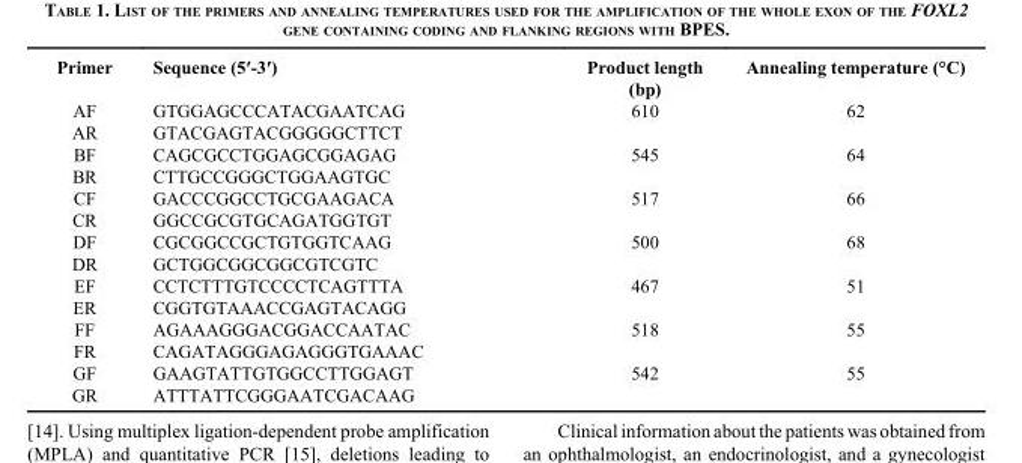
<table><thead><tr><td>Primer</td><td>Sequence (5′-3′)</td><td>Product length (bp)</td><td>Annealing temperature (°C)</td></tr></thead><tbody><tr><td>AF</td><td>GTGGAGCCCATACGAATCAG</td><td>610</td><td>62</td></tr><tr><td>AR</td><td>GTACGAGTACGGGGGCTTCT</td><td></td><td></td></tr><tr><td>BF</td><td>CAGCGCCTGGAGCGGAGAG</td><td>545</td><td>64</td></tr><tr><td>BR</td><td>CTTGCCGGGCTGGAAGTGC</td><td></td><td></td></tr><tr><td>CF</td><td>GACCCGGCCTGCGAAGACA</td><td>517</td><td>66</td></tr><tr><td>CR</td><td>GGCCGCGTGCAGATGGTGT</td><td></td><td></td></tr><tr><td>DF</td><td>CGCGGCCGCTGTGGTCAAG</td><td>500</td><td>68</td></tr><tr><td>DR</td><td>GCTGGCGGCGGCGTCGTC</td><td></td><td></td></tr><tr><td>EF</td><td>CCTCTTTGTCCCCTCAGTTTA</td><td>467</td><td>51</td></tr><tr><td>ER</td><td>CGGTGTAAACCGAGTACAGG</td><td></td><td></td></tr><tr><td>FF</td><td>AGAAAGGGACGGACCAATAC</td><td>518</td><td>55</td></tr><tr><td>FR</td><td>CAGATAGGGAGAGGGTGAAAC</td><td></td><td></td></tr><tr><td>GF</td><td>GAAGTATTGTGGCCTTGGAGT</td><td>542</td><td>55</td></tr><tr><td>GR</td><td>ATTTATTCGGGAATCGACAAG</td><td></td><td></td></tr></tbody></table>